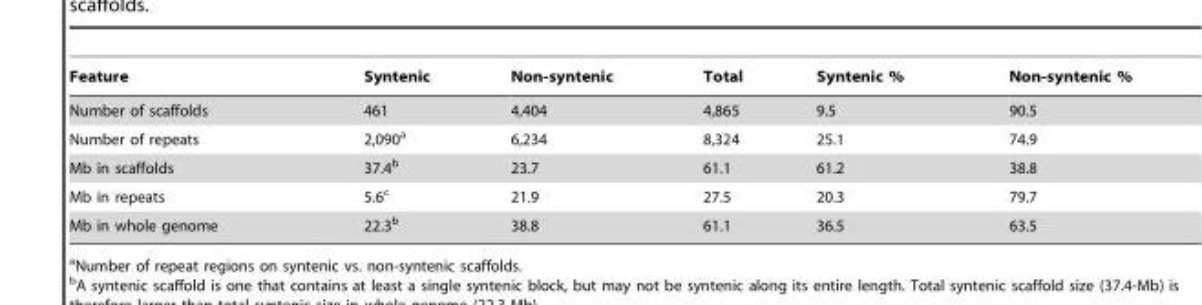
<table><thead><tr><td>Feature</td><td>Syntenic</td><td>Non-syntenic</td><td>Total</td><td>Syntenic %</td><td>Non-syntenic %</td></tr></thead><tbody><tr><td>Number of scaffolds</td><td>461</td><td>4,404</td><td>4,865</td><td>9.5</td><td>90.5</td></tr><tr><td>Number of repeats</td><td>2,090<sup>a</sup></td><td>6,234</td><td>8,324</td><td>25.1</td><td>74.9</td></tr><tr><td>Mb in scaffolds</td><td>37.4<sup>b</sup></td><td>23.7</td><td>61.1</td><td>61.2</td><td>38.8</td></tr><tr><td>Mb in repeats</td><td>5.6<sup>c</sup></td><td>21.9</td><td>27.5</td><td>20.3</td><td>79.7</td></tr><tr><td>Mb in whole genome</td><td>22.3<sup>b</sup></td><td>38.8</td><td>61.1</td><td>36.5</td><td>63.5</td></tr></tbody></table>